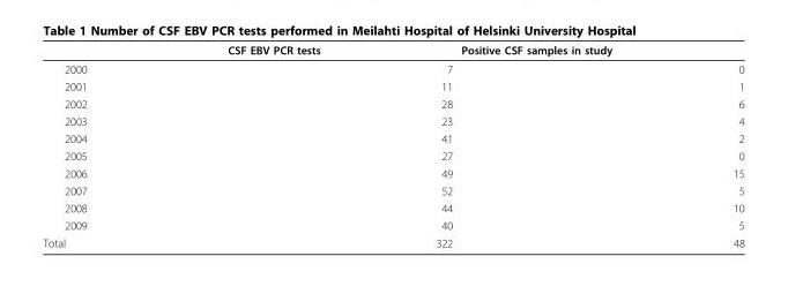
<table><thead><tr><td></td><td>CSF EBV PCR tests</td><td>Positive CSF samples in study</td></tr></thead><tbody><tr><td>2000</td><td>7</td><td>0</td></tr><tr><td>2001</td><td>11</td><td>1</td></tr><tr><td>2002</td><td>28</td><td>6</td></tr><tr><td>2003</td><td>23</td><td>4</td></tr><tr><td>2004</td><td>41</td><td>2</td></tr><tr><td>2005</td><td>27</td><td>0</td></tr><tr><td>2006</td><td>49</td><td>15</td></tr><tr><td>2007</td><td>52</td><td>5</td></tr><tr><td>2008</td><td>44</td><td>10</td></tr><tr><td>2009</td><td>40</td><td>5</td></tr><tr><td>Total</td><td>322</td><td>48</td></tr></tbody></table>